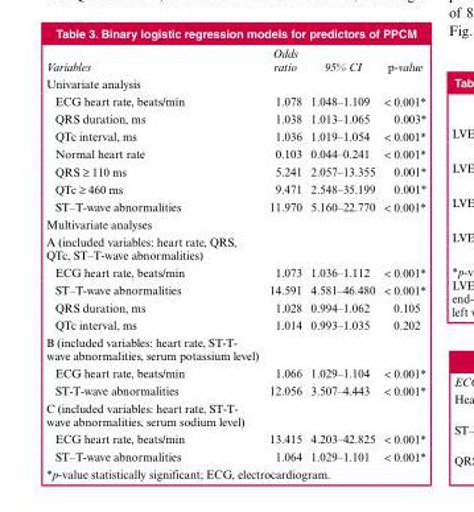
<table><thead><tr><td>Variables</td><td>Odds ratio</td><td>95% CI</td><td>p-value</td></tr></thead><tbody><tr><td colspan="4">Univariate analysis</td></tr><tr><td>ECG heart rate, beats/min</td><td>1.078</td><td>1.048–1.109</td><td>&lt; 0.001*</td></tr><tr><td>QRS duration, ms</td><td>1.038</td><td>1.013–1.065</td><td>0.003*</td></tr><tr><td>QTc interval, ms</td><td>1.036</td><td>1.019–1.054</td><td>&lt; 0.001*</td></tr><tr><td>Normal heart rate</td><td>0.103</td><td>0.044–0.241</td><td>&lt; 0.001*</td></tr><tr><td>QRS ≥ 110 ms</td><td>5.241</td><td>2.057–13.355</td><td>0.001*</td></tr><tr><td>QTc ≥ 460 ms</td><td>9.471</td><td>2.548–35.199</td><td>0.001*</td></tr><tr><td>ST–T-wave abnormalities</td><td>11.970</td><td>5.160–22.770</td><td>&lt; 0.001*</td></tr><tr><td colspan="4">Multivariate analyses</td></tr><tr><td colspan="4">A (included variables: heart rate, QRS, QTc, ST–T-wave abnormalities)</td></tr><tr><td>ECG heart rate, beats/min</td><td>1.073</td><td>1.036–1.112</td><td>&lt; 0.001*</td></tr><tr><td>ST–T-wave abnormalities</td><td>14.591</td><td>4.581–46.480</td><td>&lt; 0.001*</td></tr><tr><td>QRS duration, ms</td><td>1.028</td><td>0.994–1.062</td><td>0.105</td></tr><tr><td>QTc interval, ms</td><td>1.014</td><td>0.993–1.035</td><td>0.202</td></tr><tr><td colspan="4">B (included variables: heart rate, ST-T- wave abnormalities, serum potassium level)</td></tr><tr><td>ECG heart rate, beats/min</td><td>1.066</td><td>1.029–1.104</td><td>&lt; 0.001*</td></tr><tr><td>ST-T-wave abnormalities</td><td>12.056</td><td>3.507–4.443</td><td>&lt; 0.001*</td></tr><tr><td colspan="4">C (included variables: heart rate, ST-T- wave abnormalities, serum sodium level)</td></tr><tr><td>ECG heart rate, beats/min</td><td>13.415</td><td>4.203–42.825</td><td>&lt; 0.001*</td></tr><tr><td>ST–T-wave abnormalities</td><td>1.064</td><td>1.029–1.101</td><td>&lt; 0.001*</td></tr></tbody></table>